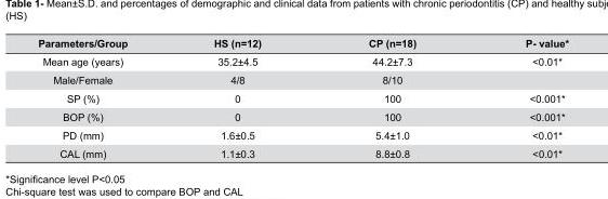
<table><thead><tr><td>Parameters/Group</td><td>HS (n=12)</td><td>CP (n=18)</td><td>P- value*</td></tr></thead><tbody><tr><td>Mean age (years)</td><td>35.2±4.5</td><td>44.2±7.3</td><td>&lt;0.01*</td></tr><tr><td>Male/Female</td><td>4/8</td><td>8/10</td><td></td></tr><tr><td>SP (%)</td><td>0</td><td>100</td><td>&lt;0.001*</td></tr><tr><td>BOP (%)</td><td>0</td><td>100</td><td>&lt;0.001*</td></tr><tr><td>PD (mm)</td><td>1.6±0.5</td><td>5.4±1.0</td><td>&lt;0.01*</td></tr><tr><td>CAL (mm)</td><td>1.1±0.3</td><td>8.8±0.8</td><td>&lt;0.01*</td></tr></tbody></table>